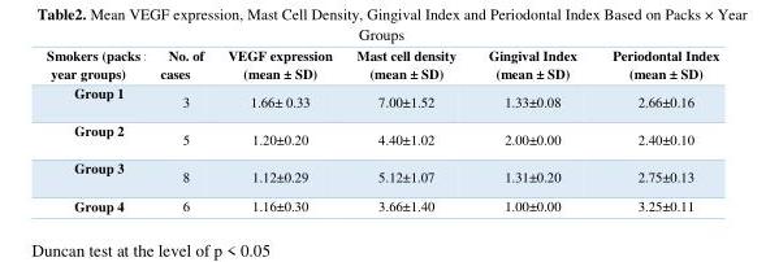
<table><thead><tr><td>Smokers (packs × year groups)</td><td>No. of cases</td><td>VEGF expression (mean ± SD)</td><td>Mast cell density (mean ± SD)</td><td>Gingival Index (mean ± SD)</td><td>Periodontal Index (mean ± SD)</td></tr></thead><tbody><tr><td>Group 1</td><td>3</td><td>1.66± 0.33</td><td>7.00±1.52</td><td>1.33±0.08</td><td>2.66±0.16</td></tr><tr><td>Group 2</td><td>5</td><td>1.20±0.20</td><td>4.40±1.02</td><td>2.00±0.00</td><td>2.40±0.10</td></tr><tr><td>Group 3</td><td>8</td><td>1.12±0.29</td><td>5.12±1.07</td><td>1.31±0.20</td><td>2.75±0.13</td></tr><tr><td>Group 4</td><td>6</td><td>1.16±0.30</td><td>3.66±1.40</td><td>1.00±0.00</td><td>3.25±0.11</td></tr></tbody></table>